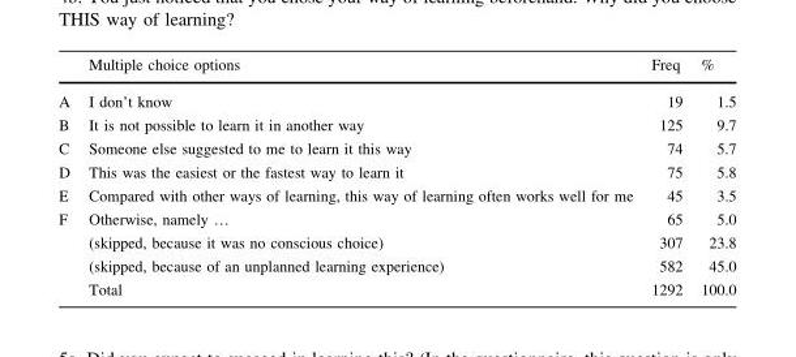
<table><thead><tr><td></td><td>Multiple choice options</td><td>Freq</td><td>%</td></tr></thead><tbody><tr><td>A</td><td>I don’t know</td><td>19</td><td>1.5</td></tr><tr><td>B</td><td>It is not possible to learn it in another way</td><td>125</td><td>9.7</td></tr><tr><td>C</td><td>Someone else suggested to me to learn it this way</td><td>74</td><td>5.7</td></tr><tr><td>D</td><td>This was the easiest or the fastest way to learn it</td><td>75</td><td>5.8</td></tr><tr><td>E</td><td>Compared with other ways of learning, this way of learning often works well for me</td><td>45</td><td>3.5</td></tr><tr><td rowspan="4">F</td><td>Otherwise, namely …</td><td>65</td><td>5.0</td></tr><tr><td>(skipped, because it was no conscious choice)</td><td>307</td><td>23.8</td></tr><tr><td>(skipped, because of an unplanned learning experience)</td><td>582</td><td>45.0</td></tr><tr><td>Total</td><td>1292</td><td>100.0</td></tr></tbody></table>